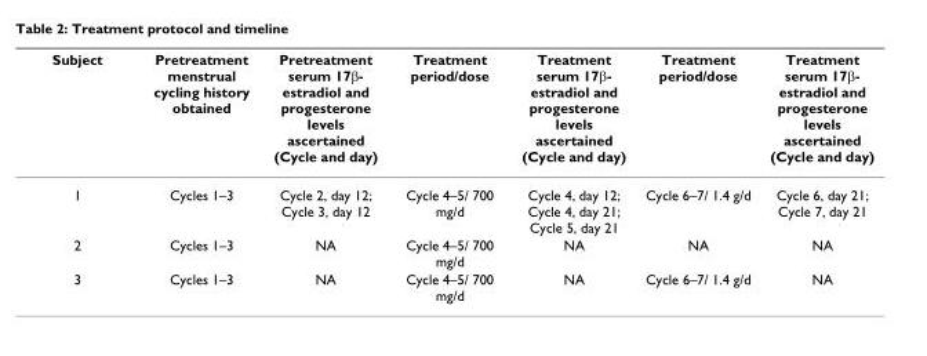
<table><thead><tr><td>Subject</td><td>Pretreatment menstrual cycling history obtained</td><td>Pretreatment serum 17β- estradiol and progesterone levels ascertained (Cycle and day)</td><td>Treatment period/dose</td><td>Treatment serum 17β- estradiol and progesterone levels ascertained (Cycle and day)</td><td>Treatment period/dose</td><td>Treatment serum 17β- estradiol and progesterone levels ascertained (Cycle and day)</td></tr></thead><tbody><tr><td>1</td><td>Cycles 1–3</td><td>Cycle 2, day 12; Cycle 3, day 12</td><td>Cycle 4–5/ 700 mg/d</td><td>Cycle 4, day 12; Cycle 4, day 21; Cycle 5, day 21</td><td>Cycle 6–7/ 1.4 g/d</td><td>Cycle 6, day 21; Cycle 7, day 21</td></tr><tr><td>2</td><td>Cycles 1–3</td><td>NA</td><td>Cycle 4–5/ 700 mg/d</td><td>NA</td><td>NA</td><td>NA</td></tr><tr><td>3</td><td>Cycles 1–3</td><td>NA</td><td>Cycle 4–5/ 700 mg/d</td><td>NA</td><td>Cycle 6–7/ 1.4 g/d</td><td>NA</td></tr></tbody></table>